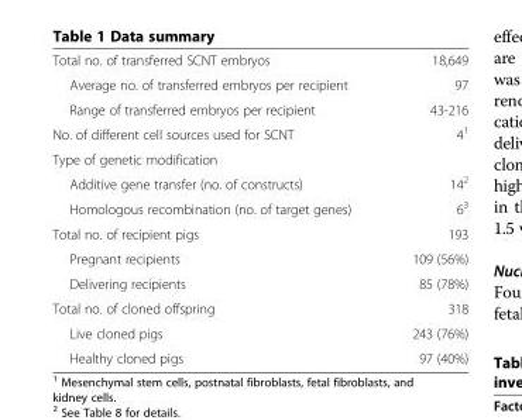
<table><tbody><tr><td>Total no. of transferred SCNT embryos</td><td>18,649</td></tr><tr><td>Average no. of transferred embryos per recipient</td><td>97</td></tr><tr><td>Range of transferred embryos per recipient</td><td>43-216</td></tr><tr><td>No. of different cell sources used for SCNT</td><td>4<sup>1</sup></td></tr><tr><td colspan="2">Type of genetic modification</td></tr><tr><td>Additive gene transfer (no. of constructs)</td><td>14<sup>2</sup></td></tr><tr><td>Homologous recombination (no. of target genes)</td><td>6<sup>3</sup></td></tr><tr><td>Total no. of recipient pigs</td><td>193</td></tr><tr><td>Pregnant recipients</td><td>109 (56%)</td></tr><tr><td>Delivering recipients</td><td>85 (78%)</td></tr><tr><td>Total no. of cloned offspring</td><td>318</td></tr><tr><td>Live cloned pigs</td><td>243 (76%)</td></tr><tr><td>Healthy cloned pigs</td><td>97 (40%)</td></tr></tbody></table>